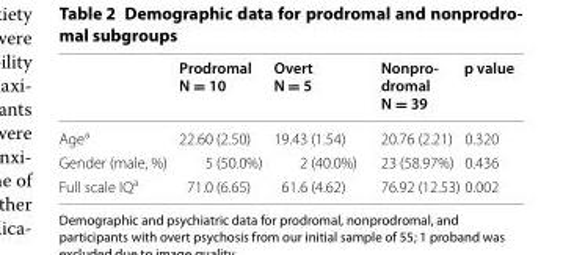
<table><thead><tr><td></td><td>Prodromal N = 10</td><td>Overt N = 5</td><td>Nonpro- dromal N = 39</td><td>p value</td></tr></thead><tbody><tr><td>Age<sup>a</sup></td><td>22.60 (2.50)</td><td>19.43 (1.54)</td><td>20.76 (2.21)</td><td>0.320</td></tr><tr><td>Gender (male, %)</td><td>5 (50.0%)</td><td>2 (40.0%)</td><td>23 (58.97%)</td><td>0.436</td></tr><tr><td>Full scale IQ<sup>a</sup></td><td>71.0 (6.65)</td><td>61.6 (4.62)</td><td>76.92 (12.53)</td><td>0.002</td></tr></tbody></table>